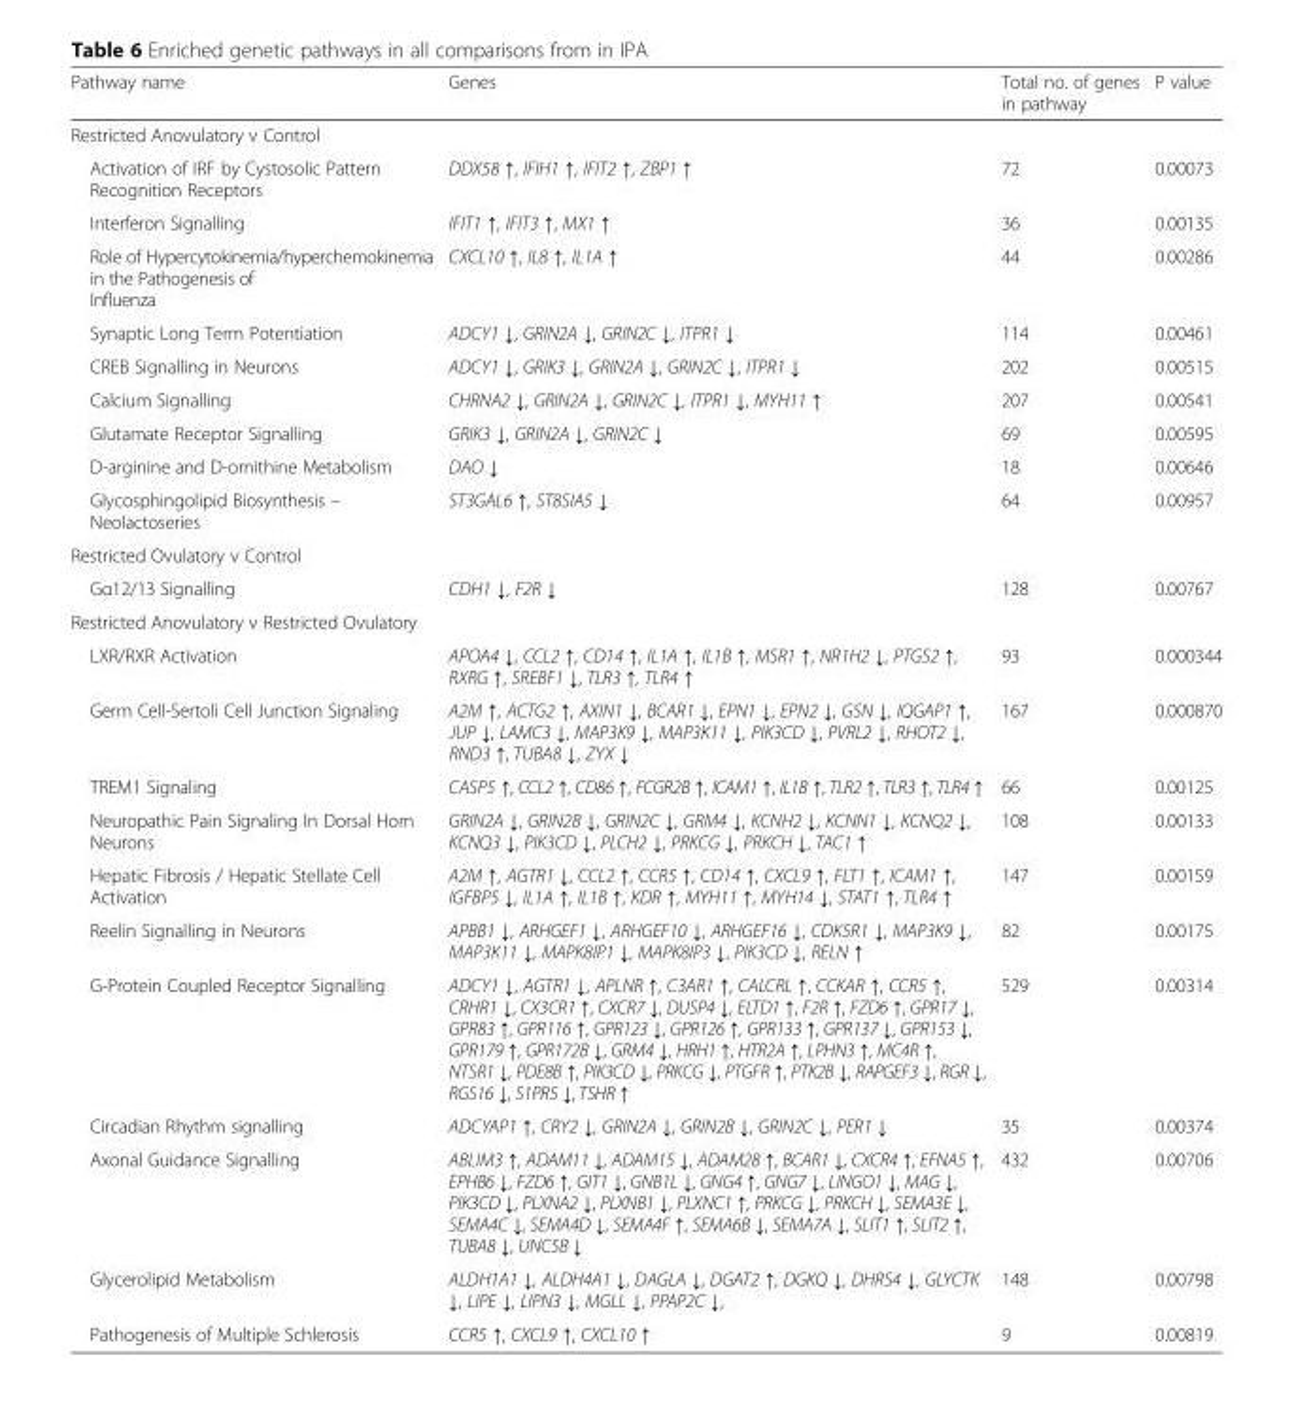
<table><thead><tr><td>Pathway name</td><td>Genes</td><td>Total no. of genes in pathway</td><td>P value</td></tr></thead><tbody><tr><td colspan="4">Restricted Anovulatory v Control</td></tr><tr><td>Activation of IRF by Cystosolic Pattern Recognition Receptors</td><td>DDX58 ↑, IFIH1 ↑, IFIT2 ↑, ZBP1 ↑</td><td>72</td><td>0.00073</td></tr><tr><td>Interferon Signalling</td><td>IFIT1 ↑, IFIT3 ↑, MX1 ↑</td><td>36</td><td>0.00135</td></tr><tr><td>Role of Hypercytokinemia/hyperchemokinemia in the Pathogenesis of Influenza</td><td>CXCL10 ↑, IL8 ↑, IL1A ↑</td><td>44</td><td>0.00286</td></tr><tr><td>Synaptic Long Term Potentiation</td><td>ADCY1 ↓, GRIN2A ↓, GRIN2C ↓, ITPR1 ↓</td><td>114</td><td>0.00461</td></tr><tr><td>CREB Signalling in Neurons</td><td>ADCY1 ↓, GRIK3 ↓, GRIN2A ↓, GRIN2C ↓, ITPR1 ↓</td><td>202</td><td>0.00515</td></tr><tr><td>Calcium Signalling</td><td>CHRNA2 ↓, GRIN2A ↓, GRIN2C ↓, ITPR1 ↓, MYH11 ↑</td><td>207</td><td>0.00541</td></tr><tr><td>Glutamate Receptor Signalling</td><td>GRIK3 ↓, GRIN2A ↓, GRIN2C ↓</td><td>69</td><td>0.00595</td></tr><tr><td>D-arginine and D-ornithine Metabolism</td><td>DAO ↓</td><td>18</td><td>0.00646</td></tr><tr><td>Glycosphingolipid Biosynthesis – Neolactoseries</td><td>ST3GAL6 ↑, ST8SIA5 ↓</td><td>64</td><td>0.00957</td></tr><tr><td colspan="4">Restricted Ovulatory v Control</td></tr><tr><td>Gα12/13 Signalling</td><td>CDH1 ↓, F2R ↓</td><td>128</td><td>0.00767</td></tr><tr><td colspan="4">Restricted Anovulatory v Restricted Ovulatory</td></tr><tr><td>LXR/RXR Activation</td><td>APOA4 ↓, CCL2 ↑, CD14 ↑, IL1A ↑, IL1B ↑, MSR1 ↑, NR1H2 ↓, PTGS2 ↑, RXRG ↑, SREBF1 ↓, TLR3 ↑, TLR4 ↑</td><td>93</td><td>0.000344</td></tr><tr><td>Germ Cell-Sertoli Cell Junction Signaling</td><td>A2M ↑, ACTG2 ↑, AXIN1 ↓, BCAR1 ↓, EPN1 ↓, EPN2 ↓, GSN ↓, IQGAP1 ↑, JUP ↓, LAMC3 ↓, MAP3K9 ↓, MAP3K11 ↓, PIK3CD ↓, PVRL2 ↓, RHOT2 ↓, RND3 ↑, TUBA8 ↓, ZYX ↓</td><td>167</td><td>0.000870</td></tr><tr><td>TREM1 Signaling</td><td>CASP5 ↑, CCL2 ↑, CD86 ↑, FCGR2B ↑, ICAM1 ↑, IL1B ↑, TLR2 ↑, TLR3 ↑, TLR4 ↑</td><td>66</td><td>0.00125</td></tr><tr><td>Neuropathic Pain Signaling In Dorsal Horn Neurons</td><td>GRIN2A ↓, GRIN2B ↓, GRIN2C ↓, GRM4 ↓, KCNH2 ↓, KCNN1 ↓, KCNQ2 ↓, KCNQ3 ↓, PIK3CD ↓, PLCH2 ↓, PRKCG ↓, PRKCH ↓, TAC1 ↑</td><td>108</td><td>0.00133</td></tr><tr><td>Hepatic Fibrosis / Hepatic Stellate Cell Activation</td><td>A2M ↑, AGTR1 ↓, CCL2 ↑, CCR5 ↑, CD14 ↑, CXCL9 ↑, FLT1 ↑, ICAM1 ↑, IGFBP5 ↓, IL1A ↑, IL1B ↑, KDR ↑, MYH11 ↑, MYH14 ↓, STAT1 ↑, TLR4 ↑</td><td>147</td><td>0.00159</td></tr><tr><td>Reelin Signalling in Neurons</td><td>APBB1 ↓, ARHGEF1 ↓, ARHGEF10 ↓, ARHGEF16 ↓, CDK5R1 ↓, MAP3K9 ↓, MAP3K11 ↓, MAPK8IP1 ↓, MAPK8IP3 ↓, PIK3CD ↓, RELN ↑</td><td>82</td><td>0.00175</td></tr><tr><td>G-Protein Coupled Receptor Signalling</td><td>ADCY1 ↓, AGTR1 ↓, APLNR ↑, C3AR1 ↑, CALCRL ↑, CCKAR ↑, CCR5 ↑, CRHR1 ↓, CX3CR1 ↑, CXCR7 ↓, DUSP4 ↓, ELTD1 ↑, F2R ↑, FZD6 ↑, GPR17 ↓, GPR83 ↑, GPR116 ↑, GPR123 ↓, GPR126 ↑, GPR133 ↑, GPR137 ↓, GPR153 ↓, GPR179 ↑, GPR172B ↓, GRM4 ↓, HRH1 ↑, HTR2A ↑, LPHN3 ↑, MC4R ↑, NTSR1 ↓, PDE8B ↑, PIK3CD ↓, PRKCG ↓, PTGFR ↑, PTK2B ↓, RAPGEF3 ↓, RGR ↓, RGS16 ↓, S1PR5 ↓, TSHR ↑</td><td>529</td><td>0.00314</td></tr><tr><td>Circadian Rhythm signalling</td><td>ADCYAP1 ↑, CRY2 ↓, GRIN2A ↓, GRIN2B ↓, GRIN2C ↓, PER1 ↓</td><td>35</td><td>0.00374</td></tr><tr><td>Axonal Guidance Signalling</td><td>ABLIM3 ↑, ADAM11 ↓, ADAM15 ↓, ADAM28 ↑, BCAR1 ↓, CXCR4 ↑, EFNA5 ↑, EPHB6 ↓, FZD6 ↑, GIT1 ↓, GNB1L ↓, GNG4 ↑, GNG7 ↓, LINGO1 ↓, MAG ↓, PIK3CD ↓, PLXNA2 ↓, PLXNB1 ↓, PLXNC1 ↑, PRKCG ↓, PRKCH ↓, SEMA3E ↓, SEMA4C ↓, SEMA4D ↓, SEMA4F ↑, SEMA6B ↓, SEMA7A ↓, SLIT1 ↑, SLIT2 ↑, TUBA8 ↓, UNC5B ↓</td><td>432</td><td>0.00706</td></tr><tr><td>Glycerolipid Metabolism</td><td>ALDH1A1 ↓, ALDH4A1 ↓, DAGLA ↓, DGAT2 ↑, DGKQ ↓, DHRS4 ↓, GLYCTK ↓, LIPE ↓, LIPN3 ↓, MGLL ↓, PPAP2C ↓,</td><td>148</td><td>0.00798</td></tr><tr><td>Pathogenesis of Multiple Schlerosis</td><td>CCR5 ↑, CXCL9 ↑, CXCL10 ↑</td><td>9</td><td>0.00819</td></tr></tbody></table>